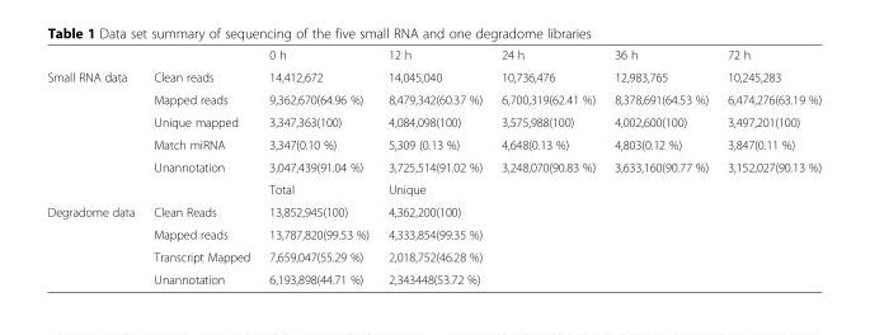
<table><thead><tr><td></td><td></td><td>0 h</td><td>12 h</td><td>24 h</td><td>36 h</td><td>72 h</td></tr></thead><tbody><tr><td rowspan="5">Small RNA data</td><td>Clean reads</td><td>14,412,672</td><td>14,045,040</td><td>10,736,476</td><td>12,983,765</td><td>10,245,283</td></tr><tr><td>Mapped reads</td><td>9,362,670(64.96 %)</td><td>8,479,342(60.37 %)</td><td>6,700,319(62.41 %)</td><td>8,378,691(64.53 %)</td><td>6,474,276(63.19 %)</td></tr><tr><td>Unique mapped</td><td>3,347,363(100)</td><td>4,084,098(100)</td><td>3,575,988(100)</td><td>4,002,600(100)</td><td>3,497,201(100)</td></tr><tr><td>Match miRNA</td><td>3,347(0.10 %)</td><td>5,309 (0.13 %)</td><td>4,648(0.13 %)</td><td>4,803(0.12 %)</td><td>3,847(0.11 %)</td></tr><tr><td>Unannotation</td><td>3,047,439(91.04 %)</td><td>3,725,514(91.02 %)</td><td>3,248,070(90.83 %)</td><td>3,633,160(90.77 %)</td><td>3,152,027(90.13 %)</td></tr><tr><td colspan="2"></td><td>Total</td><td>Unique</td><td></td><td></td><td></td></tr><tr><td rowspan="4">Degradome data</td><td>Clean Reads</td><td>13,852,945(100)</td><td>4,362,200(100)</td><td></td><td></td><td></td></tr><tr><td>Mapped reads</td><td>13,787,820(99.53 %)</td><td>4,333,854(99.35 %)</td><td></td><td></td><td></td></tr><tr><td>Transcript Mapped</td><td>7,659,047(55.29 %)</td><td>2,018,752(46.28 %)</td><td></td><td></td><td></td></tr><tr><td>Unannotation</td><td>6,193,898(44.71 %)</td><td>2,343448(53.72 %)</td><td></td><td></td><td></td></tr></tbody></table>